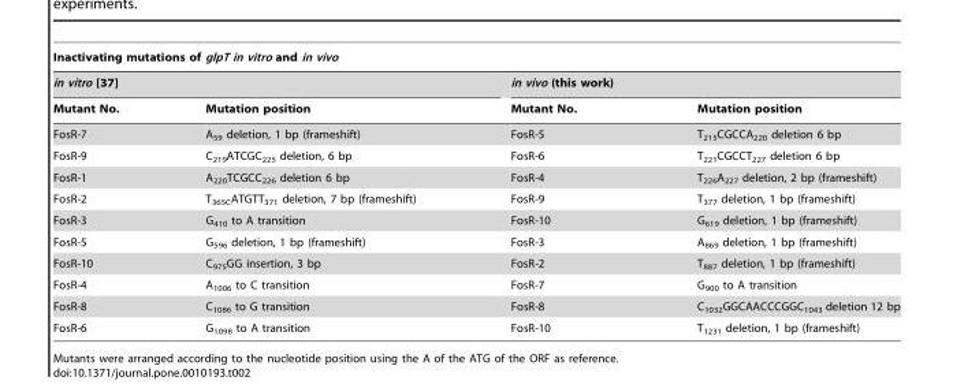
<table><thead><tr><td colspan="4">Inactivating mutations of glpT in vitro and in vivo</td></tr><tr><td colspan="2">in vitro [37]</td><td colspan="2">in vivo (this work)</td></tr><tr><td>Mutant No.</td><td>Mutation position</td><td>Mutant No.</td><td>Mutation position</td></tr></thead><tbody><tr><td>FosR-7</td><td>A<sub>59</sub> deletion, 1 bp (frameshift)</td><td>FosR-5</td><td>T<sub>215</sub>CGCCA<sub>220</sub> deletion 6 bp</td></tr><tr><td>FosR-9</td><td>C<sub>219</sub>ATCGC<sub>225</sub> deletion, 6 bp</td><td>FosR-6</td><td>T<sub>221</sub>CGCCT<sub>227</sub> deletion 6 bp</td></tr><tr><td>FosR-1</td><td>A<sub>220</sub>TCGCC<sub>226</sub> deletion 6 bp</td><td>FosR-4</td><td>T<sub>226</sub>A<sub>227</sub> deletion, 2 bp (frameshift)</td></tr><tr><td>FosR-2</td><td>T<sub>365C</sub>ATGTT<sub>371</sub> deletion, 7 bp (frameshift)</td><td>FosR-9</td><td>T<sub>377</sub> deletion, 1 bp (frameshift)</td></tr><tr><td>FosR-3</td><td>G<sub>410</sub> to A transition</td><td>FosR-10</td><td>G<sub>619</sub> deletion, 1 bp (frameshift)</td></tr><tr><td>FosR-5</td><td>G<sub>596</sub> deletion, 1 bp (frameshift)</td><td>FosR-3</td><td>A<sub>869</sub> deletion, 1 bp (frameshift)</td></tr><tr><td>FosR-10</td><td>C<sub>975</sub>GG insertion, 3 bp</td><td>FosR-2</td><td>T<sub>887</sub> deletion, 1 bp (frameshift)</td></tr><tr><td>FosR-4</td><td>A<sub>1006</sub> to C transition</td><td>FosR-7</td><td>G<sub>900</sub> to A transition</td></tr><tr><td>FosR-8</td><td>C<sub>1086</sub> to G transition</td><td>FosR-8</td><td>C<sub>1032</sub>GGCAACCCGGC<sub>1043</sub> deletion 12 bp</td></tr><tr><td>FosR-6</td><td>G<sub>1098</sub> to A transition</td><td>FosR-10</td><td>T<sub>1231</sub> deletion, 1 bp (frameshift)</td></tr></tbody></table>